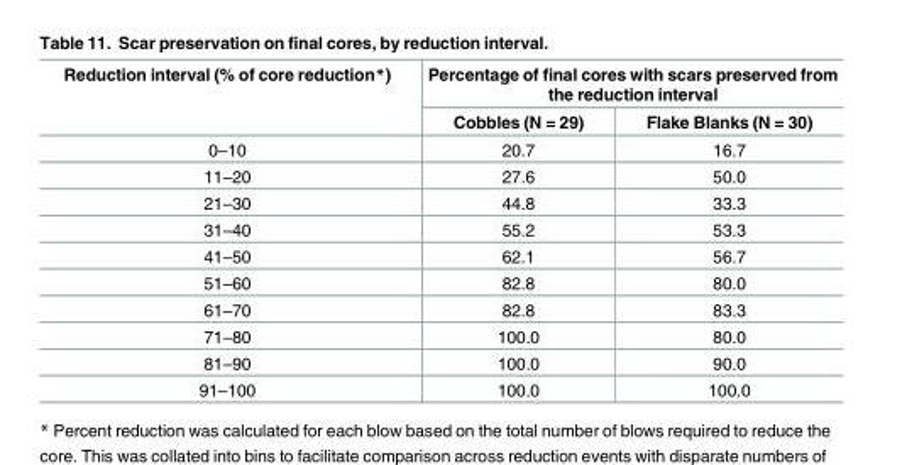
<table><thead><tr><td rowspan="2">Reduction interval (% of core reduction*)</td><td colspan="2">Percentage of final cores with scars preserved from the reduction interval</td></tr><tr><td>Cobbles (N = 29)</td><td>Flake Blanks (N = 30)</td></tr></thead><tbody><tr><td>0–10</td><td>20.7</td><td>16.7</td></tr><tr><td>11–20</td><td>27.6</td><td>50.0</td></tr><tr><td>21–30</td><td>44.8</td><td>33.3</td></tr><tr><td>31–40</td><td>55.2</td><td>53.3</td></tr><tr><td>41–50</td><td>62.1</td><td>56.7</td></tr><tr><td>51–60</td><td>82.8</td><td>80.0</td></tr><tr><td>61–70</td><td>82.8</td><td>83.3</td></tr><tr><td>71–80</td><td>100.0</td><td>80.0</td></tr><tr><td>81–90</td><td>100.0</td><td>90.0</td></tr><tr><td>91–100</td><td>100.0</td><td>100.0</td></tr></tbody></table>